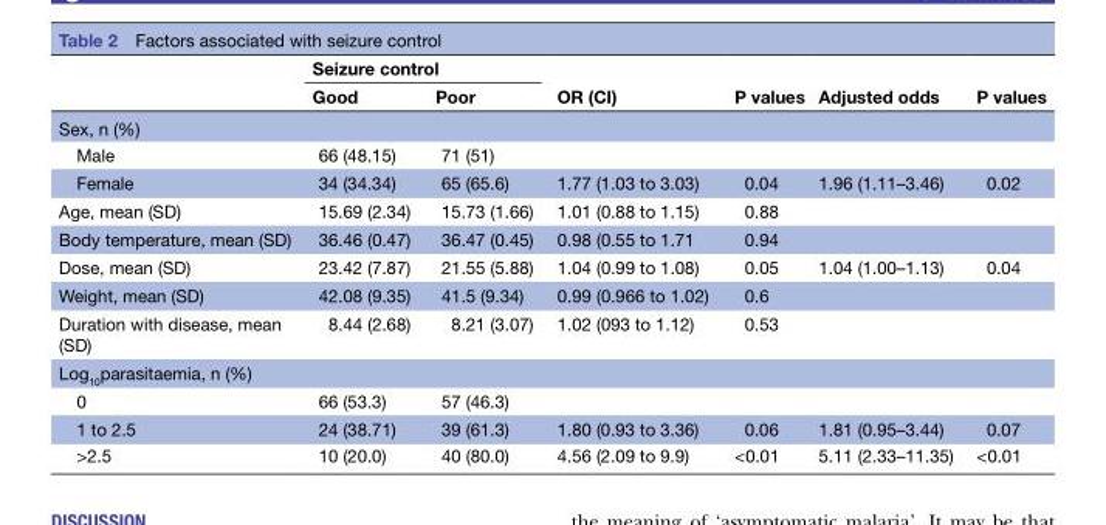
<table><thead><tr><td rowspan="2"></td><td colspan="2">Seizure control</td><td rowspan="2">OR (CI)</td><td rowspan="2">P values</td><td rowspan="2">Adjusted odds</td><td rowspan="2">P values</td></tr><tr><td>Good</td><td>Poor</td></tr></thead><tbody><tr><td colspan="7">Sex, n (%)</td></tr><tr><td>Male</td><td>66 (48.15)</td><td>71 (51)</td><td></td><td></td><td></td><td></td></tr><tr><td>Female</td><td>34 (34.34)</td><td>65 (65.6)</td><td>1.77 (1.03 to 3.03)</td><td>0.04</td><td>1.96 (1.11–3.46)</td><td>0.02</td></tr><tr><td>Age, mean (SD)</td><td>15.69 (2.34)</td><td>15.73 (1.66)</td><td>1.01 (0.88 to 1.15)</td><td>0.88</td><td></td><td></td></tr><tr><td>Body temperature, mean (SD)</td><td>36.46 (0.47)</td><td>36.47 (0.45)</td><td>0.98 (0.55 to 1.71</td><td>0.94</td><td></td><td></td></tr><tr><td>Dose, mean (SD)</td><td>23.42 (7.87)</td><td>21.55 (5.88)</td><td>1.04 (0.99 to 1.08)</td><td>0.05</td><td>1.04 (1.00–1.13)</td><td>0.04</td></tr><tr><td>Weight, mean (SD)</td><td>42.08 (9.35)</td><td>41.5 (9.34)</td><td>0.99 (0.966 to 1.02)</td><td>0.6</td><td></td><td></td></tr><tr><td>Duration with disease, mean (SD)</td><td>8.44 (2.68)</td><td>8.21 (3.07)</td><td>1.02 (093 to 1.12)</td><td>0.53</td><td></td><td></td></tr><tr><td colspan="7">Log<sub>10</sub>parasitaemia, n (%)</td></tr><tr><td>0</td><td>66 (53.3)</td><td>57 (46.3)</td><td></td><td></td><td></td><td></td></tr><tr><td>1 to 2.5</td><td>24 (38.71)</td><td>39 (61.3)</td><td>1.80 (0.93 to 3.36)</td><td>0.06</td><td>1.81 (0.95–3.44)</td><td>0.07</td></tr><tr><td>&gt;2.5</td><td>10 (20.0)</td><td>40 (80.0)</td><td>4.56 (2.09 to 9.9)</td><td>&lt;0.01</td><td>5.11 (2.33–11.35)</td><td>&lt;0.01</td></tr></tbody></table>